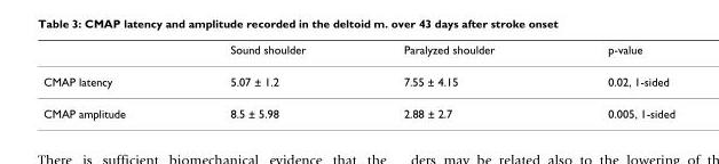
<table><thead><tr><td></td><td>Sound shoulder</td><td>Paralyzed shoulder</td><td>p-value</td></tr></thead><tbody><tr><td>CMAP latency</td><td>5.07 ± 1.2</td><td>7.55 ± 4.15</td><td>0.02, 1-sided</td></tr><tr><td>CMAP amplitude</td><td>8.5 ± 5.98</td><td>2.88 ± 2.7</td><td>0.005, 1-sided</td></tr></tbody></table>